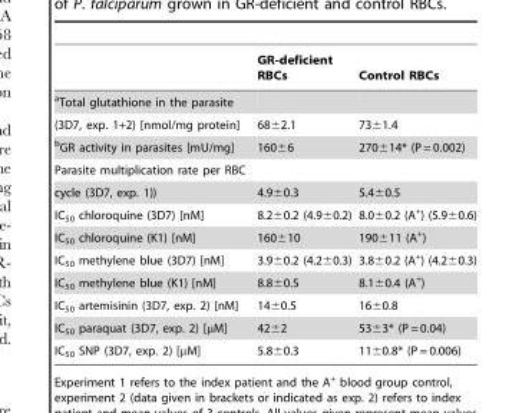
<table><thead><tr><td></td><td>GR-deficient RBCs</td><td>Control RBCs</td></tr></thead><tbody><tr><td colspan="3">aTotal glutathione in the parasite</td></tr><tr><td>(3D7, exp. 1+2) [nmol/mg protein]</td><td>68±2.1</td><td>73±1.4</td></tr><tr><td>bGR activity in parasites [mU/mg]</td><td>160±6</td><td>270±14* (P = 0.002)</td></tr><tr><td colspan="3">Parasite multiplication rate per RBC</td></tr><tr><td>cycle (3D7, exp. 1))</td><td>4.9±0.3</td><td>5.4±0.5</td></tr><tr><td>IC<sub>50</sub> chloroquine (3D7) [nM]</td><td>8.2±0.2 (4.9±0.2)</td><td>8.0±0.2 (A<sup>+</sup>) (5.9±0.6)</td></tr><tr><td>IC<sub>50</sub> chloroquine (K1) [nM]</td><td>160±10</td><td>190±11 (A<sup>+</sup>)</td></tr><tr><td>IC<sub>50</sub> methylene blue (3D7) [nM]</td><td>3.9±0.2 (4.2±0.3)</td><td>3.8±0.2 (A<sup>+</sup>) (4.2±0.3)</td></tr><tr><td>IC<sub>50</sub> methylene blue (K1) [nM]</td><td>8.8±0.5</td><td>8.1±0.4 (A<sup>+</sup>)</td></tr><tr><td>IC<sub>50</sub> artemisinin (3D7, exp. 2) [nM]</td><td>14±0.5</td><td>16±0.8</td></tr><tr><td>IC<sub>50</sub> paraquat (3D7, exp. 2) [μM]</td><td>42±2</td><td>53±3* (P = 0.04)</td></tr><tr><td>IC<sub>50</sub> SNP (3D7, exp. 2) [μM]</td><td>5.8±0.3</td><td>11±0.8* (P = 0.006)</td></tr></tbody></table>